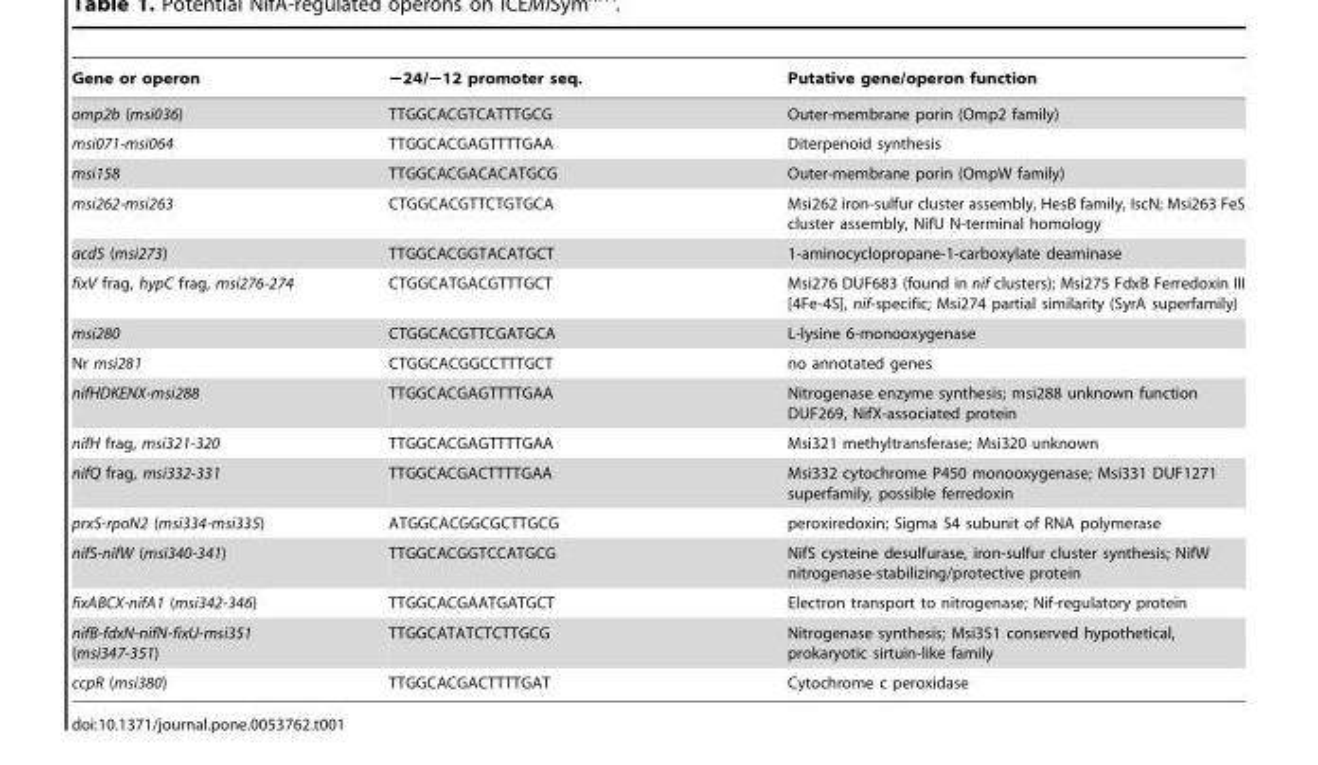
<table><thead><tr><td>Gene or operon</td><td>−24/−12 promoter seq.</td><td>Putative gene/operon function</td></tr></thead><tbody><tr><td>omp2b (msi036)</td><td>TTGGCACGTCATTTGCG</td><td>Outer-membrane porin (Omp2 family)</td></tr><tr><td>msi071-msi064</td><td>TTGGCACGAGTTTTGAA</td><td>Diterpenoid synthesis</td></tr><tr><td>msi158</td><td>TTGGCACGACACATGCG</td><td>Outer-membrane porin (OmpW family)</td></tr><tr><td>msi262-msi263</td><td>CTGGCACGTTCTGTGCA</td><td>Msi262 iron-sulfur cluster assembly, HesB family, IscN; Msi263 FeS cluster assembly, NifU N-terminal homology</td></tr><tr><td>acdS (msi273)</td><td>TTGGCACGGTACATGCT</td><td>1-aminocyclopropane-1-carboxylate deaminase</td></tr><tr><td>fixV frag, hypC frag, msi276-274</td><td>CTGGCATGACGTTTGCT</td><td>Msi276 DUF683 (found in nif clusters); Msi275 FdxB Ferredoxin III [4Fe-4S], nif-specific; Msi274 partial similarity (SyrA superfamily)</td></tr><tr><td>msi280</td><td>CTGGCACGTTCGATGCA</td><td>L-lysine 6-monooxygenase</td></tr><tr><td>Nr msi281</td><td>CTGGCACGGCCTTTGCT</td><td>no annotated genes</td></tr><tr><td>nifHDKENX-msi288</td><td>TTGGCACGAGTTTTGAA</td><td>Nitrogenase enzyme synthesis; msi288 unknown function DUF269, NifX-associated protein</td></tr><tr><td>nifH frag, msi321-320</td><td>TTGGCACGAGTTTTGAA</td><td>Msi321 methyltransferase; Msi320 unknown</td></tr><tr><td>nifQ frag, msi332-331</td><td>TTGGCACGACTTTTGAA</td><td>Msi332 cytochrome P450 monooxygenase; Msi331 DUF1271 superfamily, possible ferredoxin</td></tr><tr><td>prxS-rpoN2 (msi334-msi335)</td><td>ATGGCACGGCGCTTGCG</td><td>peroxiredoxin; Sigma 54 subunit of RNA polymerase</td></tr><tr><td>nifS-nifW (msi340-341)</td><td>TTGGCACGGTCCATGCG</td><td>NifS cysteine desulfurase, iron-sulfur cluster synthesis; NifW nitrogenase-stabilizing/protective protein</td></tr><tr><td>fixABCX-nifA1 (msi342-346)</td><td>TTGGCACGAATGATGCT</td><td>Electron transport to nitrogenase; Nif-regulatory protein</td></tr><tr><td>nifB-fdxN-nifN-fixU-msi351 (msi347-351)</td><td>TTGGCATATCTCTTGCG</td><td>Nitrogenase synthesis; Msi351 conserved hypothetical, prokaryotic sirtuin-like family</td></tr><tr><td>ccpR (msi380)</td><td>TTGGCACGACTTTTGAT</td><td>Cytochrome c peroxidase</td></tr></tbody></table>